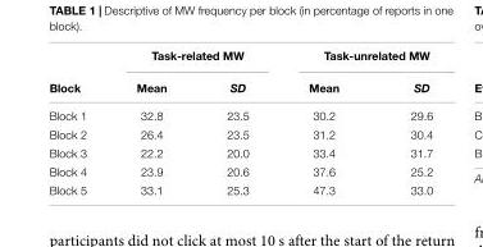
<table><thead><tr><td rowspan="2">Block</td><td colspan="2">Task-related MW</td><td colspan="2">Task-unrelated MW</td></tr><tr><td>Mean</td><td>SD</td><td>Mean</td><td>SD</td></tr></thead><tbody><tr><td>Block 1</td><td>32.8</td><td>23.5</td><td>30.2</td><td>29.6</td></tr><tr><td>Block 2</td><td>26.4</td><td>23.5</td><td>31.2</td><td>30.4</td></tr><tr><td>Block 3</td><td>22.2</td><td>20.0</td><td>33.4</td><td>31.7</td></tr><tr><td>Block 4</td><td>23.9</td><td>20.6</td><td>37.6</td><td>25.2</td></tr><tr><td>Block 5</td><td>33.1</td><td>25.3</td><td>47.3</td><td>33.0</td></tr></tbody></table>